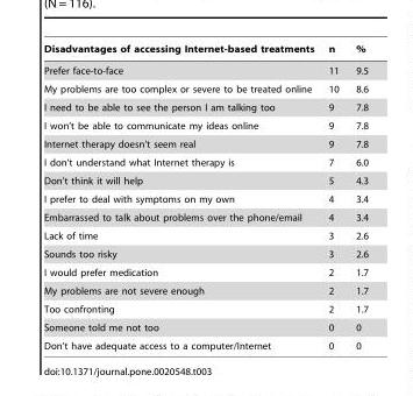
<table><thead><tr><td>Disadvantages of accessing Internet-based treatments</td><td>n</td><td>%</td></tr></thead><tbody><tr><td>Prefer face-to-face</td><td>11</td><td>9.5</td></tr><tr><td>My problems are too complex or severe to be treated online</td><td>10</td><td>8.6</td></tr><tr><td>I need to be able to see the person I am talking too</td><td>9</td><td>7.8</td></tr><tr><td>I won’t be able to communicate my ideas online</td><td>9</td><td>7.8</td></tr><tr><td>Internet therapy doesn’t seem real</td><td>9</td><td>7.8</td></tr><tr><td>I don’t understand what Internet therapy is</td><td>7</td><td>6.0</td></tr><tr><td>Don’t think it will help</td><td>5</td><td>4.3</td></tr><tr><td>I prefer to deal with symptoms on my own</td><td>4</td><td>3.4</td></tr><tr><td>Embarrassed to talk about problems over the phone/email</td><td>4</td><td>3.4</td></tr><tr><td>Lack of time</td><td>3</td><td>2.6</td></tr><tr><td>Sounds too risky</td><td>3</td><td>2.6</td></tr><tr><td>I would prefer medication</td><td>2</td><td>1.7</td></tr><tr><td>My problems are not severe enough</td><td>2</td><td>1.7</td></tr><tr><td>Too confronting</td><td>2</td><td>1.7</td></tr><tr><td>Someone told me not too</td><td>0</td><td>0</td></tr><tr><td>Don’t have adequate access to a computer/Internet</td><td>0</td><td>0</td></tr></tbody></table>